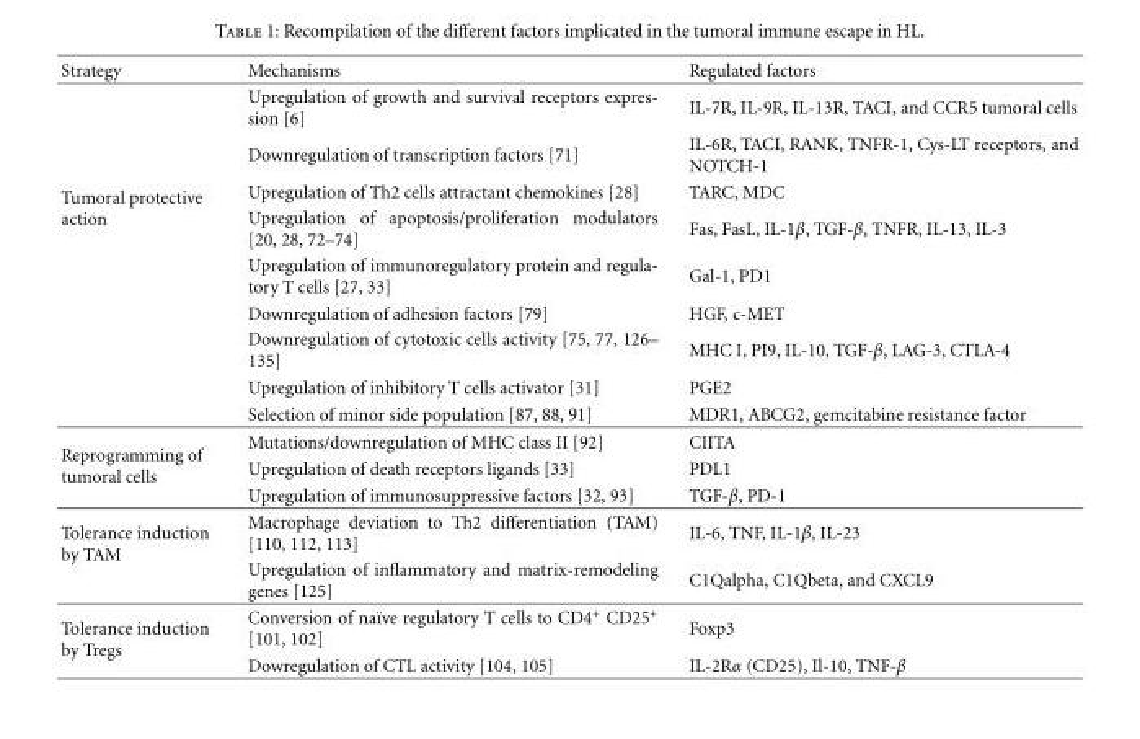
<table><thead><tr><td>Strategy</td><td>Mechanisms</td><td>Regulated factors</td></tr></thead><tbody><tr><td rowspan="9">Tumoral protective action</td><td>Upregulation of growth and survival receptors expres- sion [6]</td><td>IL-7R, IL-9R, IL-13R, TACI, and CCR5 tumoral cells</td></tr><tr><td>Downregulation of transcription factors [71]</td><td>IL-6R, TACI, RANK, TNFR-1, Cys-LT receptors, and NOTCH-1</td></tr><tr><td>Upregulation of Th2 cells attractant chemokines [28]</td><td>TARC, MDC</td></tr><tr><td>Upregulation of apoptosis/proliferation modulators [20, 28, 72–74]</td><td>Fas, FasL, IL-1β, TGF-β, TNFR, IL-13, IL-3</td></tr><tr><td>Upregulation of immunoregulatory protein and regula- tory T cells [27, 33]</td><td>Gal-1, PD1</td></tr><tr><td>Downregulation of adhesion factors [79]</td><td>HGF, c-MET</td></tr><tr><td>Downregulation of cytotoxic cells activity [75, 77, 126– 135]</td><td>MHC I, PI9, IL-10, TGF-β, LAG-3, CTLA-4</td></tr><tr><td>Upregulation of inhibitory T cells activator [31]</td><td>PGE2</td></tr><tr><td>Selection of minor side population [87, 88, 91]</td><td>MDR1, ABCG2, gemcitabine resistance factor</td></tr><tr><td rowspan="3">Reprogramming of tumoral cells</td><td>Mutations/downregulation of MHC class II [92]</td><td>CIITA</td></tr><tr><td>Upregulation of death receptors ligands [33]</td><td>PDL1</td></tr><tr><td>Upregulation of immunosuppressive factors [32, 93]</td><td>TGF-β, PD-1</td></tr><tr><td rowspan="2">Tolerance induction by TAM</td><td>Macrophage deviation to Th2 differentiation (TAM) [110, 112, 113]</td><td>IL-6, TNF, IL-1β, IL-23</td></tr><tr><td>Upregulation of inflammatory and matrix-remodeling genes [125]</td><td>C1Qalpha, C1Qbeta, and CXCL9</td></tr><tr><td rowspan="2">Tolerance induction by Tregs</td><td>Conversion of na¨ıve regulatory T cells to CD4+ CD25+ [101, 102]</td><td>Foxp3</td></tr><tr><td>Dowregulation of CTL activity [104, 105]</td><td>IL-2Rα (CD25), Il-10, TNF-β</td></tr></tbody></table>